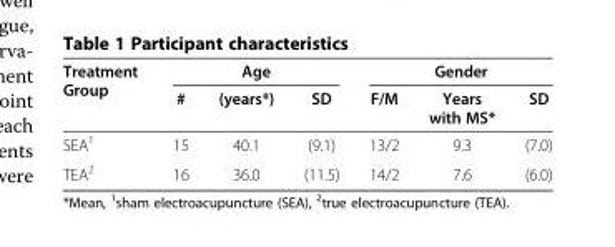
<table><thead><tr><td rowspan="2">Treatment Group</td><td colspan="3">Age</td><td colspan="3">Gender</td></tr><tr><td>#</td><td>(years*)</td><td>SD</td><td>F/M</td><td>Years with MS*</td><td>SD</td></tr></thead><tbody><tr><td>SEA<sup>1</sup></td><td>15</td><td>40.1</td><td>(9.1)</td><td>13/2</td><td>9.3</td><td>(7.0)</td></tr><tr><td>TEA<sup>2</sup></td><td>16</td><td>36.0</td><td>(11.5)</td><td>14/2</td><td>7.6</td><td>(6.0)</td></tr></tbody></table>